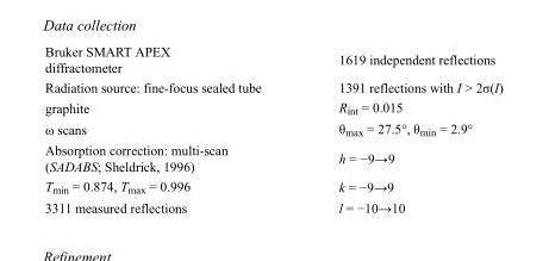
<table><tbody><tr><td>Bruker SMART APEX diffractometer</td><td>1619 independent reflections</td></tr><tr><td>Radiation source: fine-focus sealed tube</td><td>1391 reflections with I &gt; 2σ(I)</td></tr><tr><td>graphite</td><td>R<sub>int</sub> = 0.015</td></tr><tr><td>ω scans</td><td>θ<sub>max</sub> = 27.5°, θ<sub>min</sub> = 2.9°</td></tr><tr><td>Absorption correction: multi-scan (SADABS; Sheldrick, 1996)</td><td>h = −9→9</td></tr><tr><td>T<sub>min</sub> = 0.874, T<sub>max</sub> = 0.996</td><td>k = −9→9</td></tr><tr><td>3311 measured reflections</td><td>l = −10→10</td></tr></tbody></table>